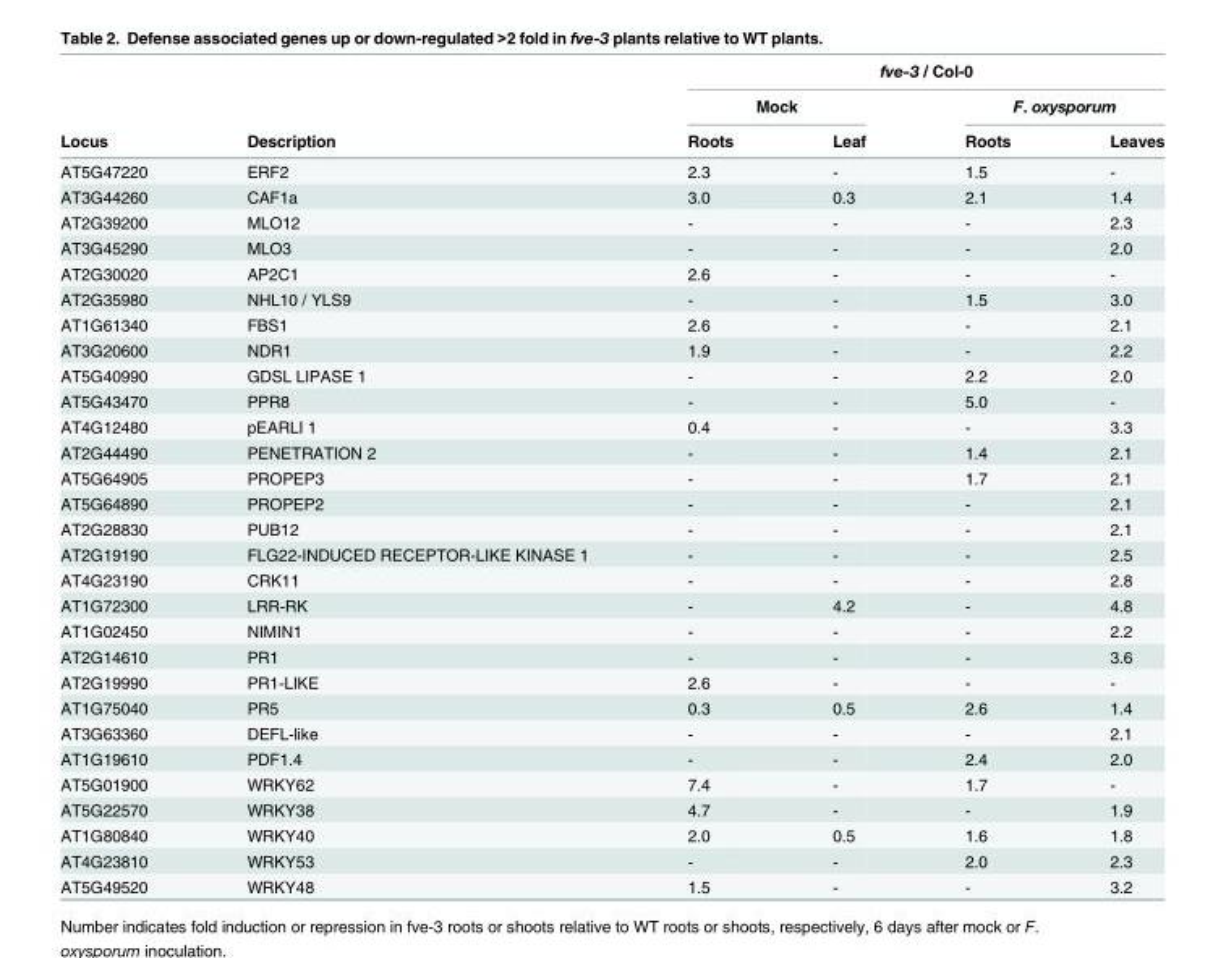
<table><thead><tr><td rowspan="3">Locus</td><td rowspan="3">Description</td><td colspan="4">fve-3 / Col-0</td></tr><tr><td colspan="2">Mock</td><td colspan="2">F. oxysporum</td></tr><tr><td>Roots</td><td>Leaf</td><td>Roots</td><td>Leaves</td></tr></thead><tbody><tr><td>AT5G47220</td><td>ERF2</td><td>2.3</td><td>-</td><td>1.5</td><td>-</td></tr><tr><td>AT3G44260</td><td>CAF1a</td><td>3.0</td><td>0.3</td><td>2.1</td><td>1.4</td></tr><tr><td>AT2G39200</td><td>MLO12</td><td>-</td><td>-</td><td>-</td><td>2.3</td></tr><tr><td>AT3G45290</td><td>MLO3</td><td>-</td><td>-</td><td>-</td><td>2.0</td></tr><tr><td>AT2G30020</td><td>AP2C1</td><td>2.6</td><td>-</td><td>-</td><td>-</td></tr><tr><td>AT2G35980</td><td>NHL10 / YLS9</td><td>-</td><td>-</td><td>1.5</td><td>3.0</td></tr><tr><td>AT1G61340</td><td>FBS1</td><td>2.6</td><td>-</td><td>-</td><td>2.1</td></tr><tr><td>AT3G20600</td><td>NDR1</td><td>1.9</td><td>-</td><td>-</td><td>2.2</td></tr><tr><td>AT5G40990</td><td>GDSL LIPASE 1</td><td>-</td><td>-</td><td>2.2</td><td>2.0</td></tr><tr><td>AT5G43470</td><td>PPR8</td><td>-</td><td>-</td><td>5.0</td><td>-</td></tr><tr><td>AT4G12480</td><td>pEARLI 1</td><td>0.4</td><td>-</td><td>-</td><td>3.3</td></tr><tr><td>AT2G44490</td><td>PENETRATION 2</td><td>-</td><td>-</td><td>1.4</td><td>2.1</td></tr><tr><td>AT5G64905</td><td>PROPEP3</td><td>-</td><td>-</td><td>1.7</td><td>2.1</td></tr><tr><td>AT5G64890</td><td>PROPEP2</td><td>-</td><td>-</td><td>-</td><td>2.1</td></tr><tr><td>AT2G28830</td><td>PUB12</td><td>-</td><td>-</td><td>-</td><td>2.1</td></tr><tr><td>AT2G19190</td><td>FLG22-INDUCED RECEPTOR-LIKE KINASE 1</td><td>-</td><td>-</td><td>-</td><td>2.5</td></tr><tr><td>AT4G23190</td><td>CRK11</td><td>-</td><td>-</td><td>-</td><td>2.8</td></tr><tr><td>AT1G72300</td><td>LRR-RK</td><td>-</td><td>4.2</td><td>-</td><td>4.8</td></tr><tr><td>AT1G02450</td><td>NIMIN1</td><td>-</td><td>-</td><td>-</td><td>2.2</td></tr><tr><td>AT2G14610</td><td>PR1</td><td>-</td><td>-</td><td>-</td><td>3.6</td></tr><tr><td>AT2G19990</td><td>PR1-LIKE</td><td>2.6</td><td>-</td><td>-</td><td>-</td></tr><tr><td>AT1G75040</td><td>PR5</td><td>0.3</td><td>0.5</td><td>2.6</td><td>1.4</td></tr><tr><td>AT3G63360</td><td>DEFL-like</td><td>-</td><td>-</td><td>-</td><td>2.1</td></tr><tr><td>AT1G19610</td><td>PDF1.4</td><td>-</td><td>-</td><td>2.4</td><td>2.0</td></tr><tr><td>AT5G01900</td><td>WRKY62</td><td>7.4</td><td>-</td><td>1.7</td><td>-</td></tr><tr><td>AT5G22570</td><td>WRKY38</td><td>4.7</td><td>-</td><td>-</td><td>1.9</td></tr><tr><td>AT1G80840</td><td>WRKY40</td><td>2.0</td><td>0.5</td><td>1.6</td><td>1.8</td></tr><tr><td>AT4G23810</td><td>WRKY53</td><td>-</td><td>-</td><td>2.0</td><td>2.3</td></tr><tr><td>AT5G49520</td><td>WRKY48</td><td>1.5</td><td>-</td><td>-</td><td>3.2</td></tr></tbody></table>